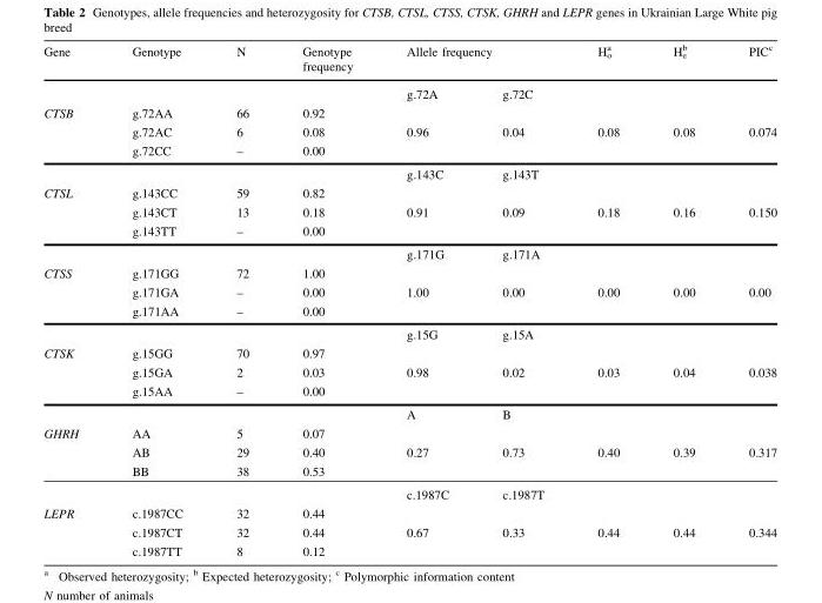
<table><thead><tr><td rowspan="2">Gene</td><td rowspan="2">Genotype</td><td rowspan="2">N</td><td rowspan="2">Genotype frequency</td><td colspan="2">Allele frequency</td><td rowspan="2">H<sub>o</sub> <sup>a</sup></td><td rowspan="2">H<sub>e</sub> <sup>b</sup></td><td rowspan="2">PIC<sup>c</sup></td></tr><tr><td>g.72A</td><td>g.72C</td></tr></thead><tbody><tr><td rowspan="4">CTSB</td><td>g.72AA</td><td>66</td><td>0.92</td><td></td><td></td><td></td><td></td><td></td></tr><tr><td>g.72AC</td><td>6</td><td>0.08</td><td>0.96</td><td>0.04</td><td>0.08</td><td>0.08</td><td>0.074</td></tr><tr><td>g.72CC</td><td>–</td><td>0.00</td><td></td><td></td><td></td><td></td><td></td></tr><tr><td></td><td></td><td></td><td>g.143C</td><td>g.143T</td><td></td><td></td><td></td></tr><tr><td rowspan="4">CTSL</td><td>g.143CC</td><td>59</td><td>0.82</td><td></td><td></td><td></td><td></td><td></td></tr><tr><td>g.143CT</td><td>13</td><td>0.18</td><td>0.91</td><td>0.09</td><td>0.18</td><td>0.16</td><td>0.150</td></tr><tr><td>g.143TT</td><td>–</td><td>0.00</td><td></td><td></td><td></td><td></td><td></td></tr><tr><td></td><td></td><td></td><td>g.171G</td><td>g.171A</td><td></td><td></td><td></td></tr><tr><td rowspan="4">CTSS</td><td>g.171GG</td><td>72</td><td>1.00</td><td></td><td></td><td></td><td></td><td></td></tr><tr><td>g.171GA</td><td>–</td><td>0.00</td><td>1.00</td><td>0.00</td><td>0.00</td><td>0.00</td><td>0.00</td></tr><tr><td>g.171AA</td><td>–</td><td>0.00</td><td></td><td></td><td></td><td></td><td></td></tr><tr><td></td><td></td><td></td><td>g.15G</td><td>g.15A</td><td></td><td></td><td></td></tr><tr><td rowspan="4">CTSK</td><td>g.15GG</td><td>70</td><td>0.97</td><td></td><td></td><td></td><td></td><td></td></tr><tr><td>g.15GA</td><td>2</td><td>0.03</td><td>0.98</td><td>0.02</td><td>0.03</td><td>0.04</td><td>0.038</td></tr><tr><td>g.15AA</td><td>–</td><td>0.00</td><td></td><td></td><td></td><td></td><td></td></tr><tr><td></td><td></td><td></td><td>A</td><td>B</td><td></td><td></td><td></td></tr><tr><td rowspan="4">GHRH</td><td>AA</td><td>5</td><td>0.07</td><td></td><td></td><td></td><td></td><td></td></tr><tr><td>AB</td><td>29</td><td>0.40</td><td>0.27</td><td>0.73</td><td>0.40</td><td>0.39</td><td>0.317</td></tr><tr><td>BB</td><td>38</td><td>0.53</td><td></td><td></td><td></td><td></td><td></td></tr><tr><td></td><td></td><td></td><td>c.1987C</td><td>c.1987T</td><td></td><td></td><td></td></tr><tr><td rowspan="3">LEPR</td><td>c.1987CC</td><td>32</td><td>0.44</td><td></td><td></td><td></td><td></td><td></td></tr><tr><td>c.1987CT</td><td>32</td><td>0.44</td><td>0.67</td><td>0.33</td><td>0.44</td><td>0.44</td><td>0.344</td></tr><tr><td>c.1987TT</td><td>8</td><td>0.12</td><td></td><td></td><td></td><td></td><td></td></tr></tbody></table>